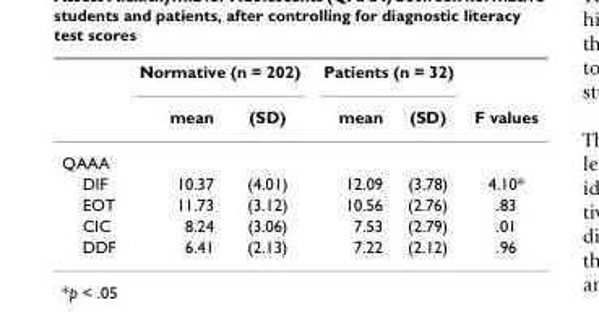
<table><thead><tr><td rowspan="2"></td><td colspan="2">Normative (n = 202)</td><td colspan="2">Patients (n = 32)</td><td rowspan="2">F values</td></tr><tr><td>mean</td><td>(SD)</td><td>mean</td><td>(SD)</td></tr></thead><tbody><tr><td colspan="6">QAAA</td></tr><tr><td>DIF</td><td>10.37</td><td>(4.01)</td><td>12.09</td><td>(3.78)</td><td>4.10*</td></tr><tr><td>EOT</td><td>11.73</td><td>(3.12)</td><td>10.56</td><td>(2.76)</td><td>.83</td></tr><tr><td>CIC</td><td>8.24</td><td>(3.06)</td><td>7.53</td><td>(2.79)</td><td>.01</td></tr><tr><td>DDF</td><td>6.41</td><td>(2.13)</td><td>7.22</td><td>(2.12)</td><td>.96</td></tr></tbody></table>